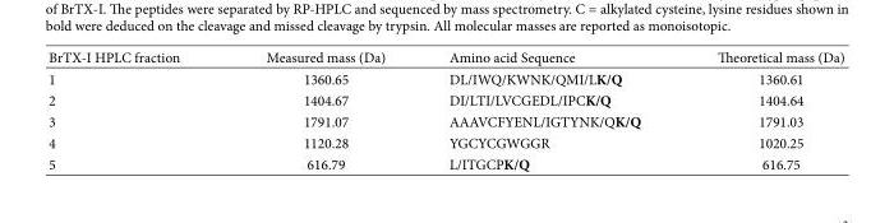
<table><thead><tr><td>BrTX-I HPLC fraction</td><td>Measured mass (Da)</td><td>Amino acid Sequence</td><td>eoretical mass (Da)</td></tr></thead><tbody><tr><td>1</td><td>1360.65</td><td>DL/IWQ/KWNK/QMI/LK/Q</td><td>1360.61</td></tr><tr><td>2</td><td>1404.67</td><td>DI/LTI/LVCGEDL/IPCK/Q</td><td>1404.64</td></tr><tr><td>3</td><td>1791.07</td><td>AAAVCFYENL/IGTYNK/QK/Q</td><td>1791.03</td></tr><tr><td>4</td><td>1120.28</td><td>YGCYCGWGGR</td><td>1020.25</td></tr><tr><td>5</td><td>616.79</td><td>L/ITGCPK/Q</td><td>616.75</td></tr></tbody></table>